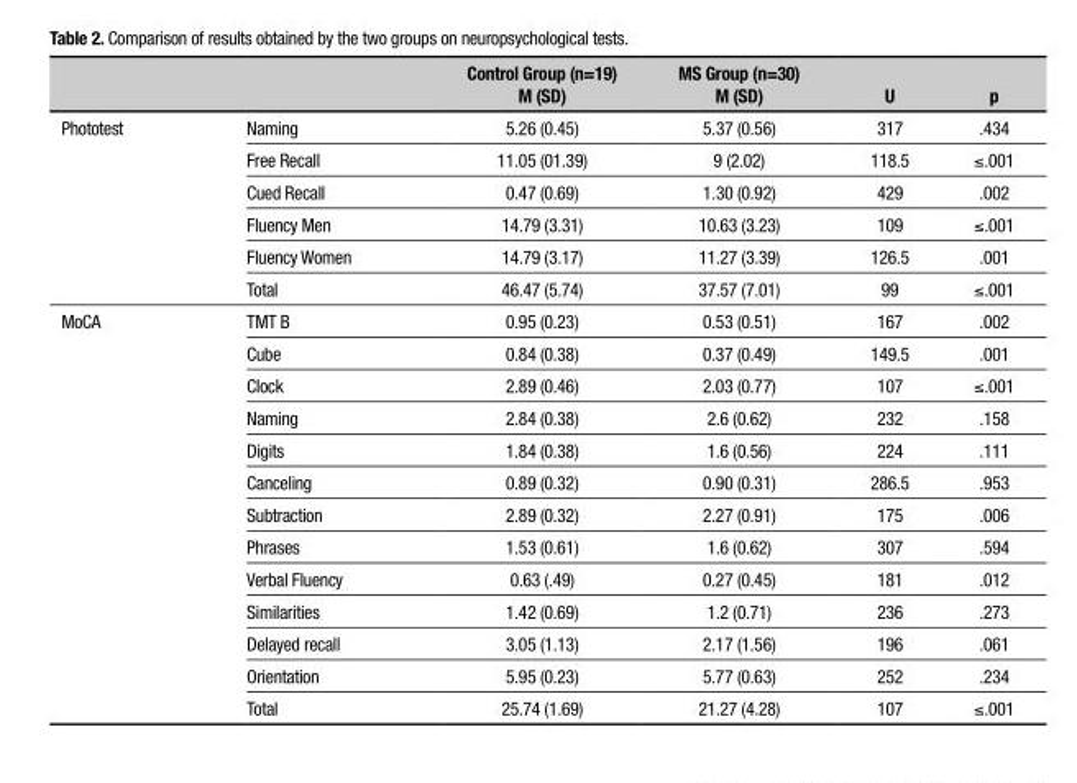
<table><thead><tr><td></td><td></td><td>Control Group (n=19) M (SD)</td><td>MS Group (n=30) M (SD)</td><td>U</td><td>p</td></tr></thead><tbody><tr><td rowspan="6">Phototest</td><td>Naming</td><td>5.26 (0.45)</td><td>5.37 (0.56)</td><td>317</td><td>.434</td></tr><tr><td>Free Recall</td><td>11.05 (01.39)</td><td>9 (2.02)</td><td>118.5</td><td>≤.001</td></tr><tr><td>Cued Recall</td><td>0.47 (0.69)</td><td>1.30 (0.92)</td><td>429</td><td>.002</td></tr><tr><td>Fluency Men</td><td>14.79 (3.31)</td><td>10.63 (3.23)</td><td>109</td><td>≤.001</td></tr><tr><td>Fluency Women</td><td>14.79 (3.17)</td><td>11.27 (3.39)</td><td>126.5</td><td>.001</td></tr><tr><td>Total</td><td>46.47 (5.74)</td><td>37.57 (7.01)</td><td>99</td><td>≤.001</td></tr><tr><td rowspan="13">MoCA</td><td>TMT B</td><td>0.95 (0.23)</td><td>0.53 (0.51)</td><td>167</td><td>.002</td></tr><tr><td>Cube</td><td>0.84 (0.38)</td><td>0.37 (0.49)</td><td>149.5</td><td>.001</td></tr><tr><td>Clock</td><td>2.89 (0.46)</td><td>2.03 (0.77)</td><td>107</td><td>≤.001</td></tr><tr><td>Naming</td><td>2.84 (0.38)</td><td>2.6 (0.62)</td><td>232</td><td>.158</td></tr><tr><td>Digits</td><td>1.84 (0.38)</td><td>1.6 (0.56)</td><td>224</td><td>.111</td></tr><tr><td>Canceling</td><td>0.89 (0.32)</td><td>0.90 (0.31)</td><td>286.5</td><td>.953</td></tr><tr><td>Subtraction</td><td>2.89 (0.32)</td><td>2.27 (0.91)</td><td>175</td><td>.006</td></tr><tr><td>Phrases</td><td>1.53 (0.61)</td><td>1.6 (0.62)</td><td>307</td><td>.594</td></tr><tr><td>Verbal Fluency</td><td>0.63 (.49)</td><td>0.27 (0.45)</td><td>181</td><td>.012</td></tr><tr><td>Similarities</td><td>1.42 (0.69)</td><td>1.2 (0.71)</td><td>236</td><td>.273</td></tr><tr><td>Delayed recall</td><td>3.05 (1.13)</td><td>2.17 (1.56)</td><td>196</td><td>.061</td></tr><tr><td>Orientation</td><td>5.95 (0.23)</td><td>5.77 (0.63)</td><td>252</td><td>.234</td></tr><tr><td>Total</td><td>25.74 (1.69)</td><td>21.27 (4.28)</td><td>107</td><td>≤.001</td></tr></tbody></table>